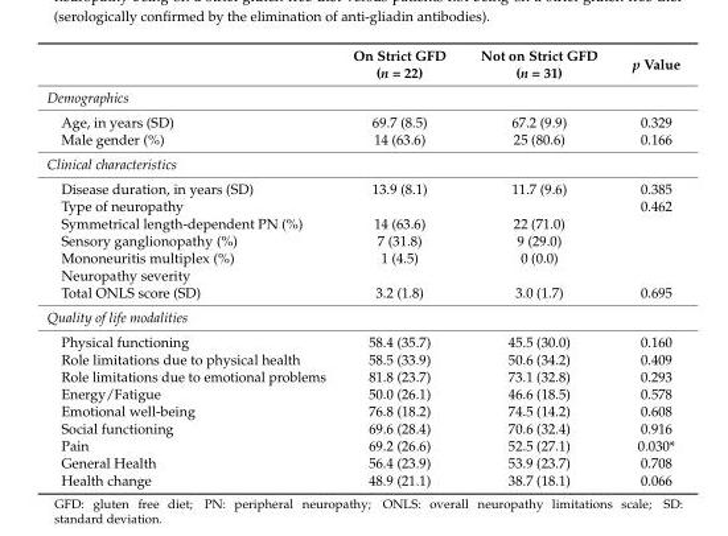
<table><thead><tr><td></td><td>On Strict GFD (n = 22)</td><td>Not on Strict GFD (n = 31)</td><td>p Value</td></tr></thead><tbody><tr><td colspan="4">Demographics</td></tr><tr><td>Age, in years (SD)</td><td>69.7 (8.5)</td><td>67.2 (9.9)</td><td>0.329</td></tr><tr><td>Male gender (%)</td><td>14 (63.6)</td><td>25 (80.6)</td><td>0.166</td></tr><tr><td colspan="4">Clinical characteristics</td></tr><tr><td>Disease duration, in years (SD)</td><td>13.9 (8.1)</td><td>11.7 (9.6)</td><td>0.385</td></tr><tr><td>Type of neuropathy</td><td></td><td></td><td>0.462</td></tr><tr><td>Symmetrical length-dependent PN (%)</td><td>14 (63.6)</td><td>22 (71.0)</td><td></td></tr><tr><td>Sensory ganglionopathy (%)</td><td>7 (31.8)</td><td>9 (29.0)</td><td></td></tr><tr><td>Mononeuritis multiplex (%)</td><td>1 (4.5)</td><td>0 (0.0)</td><td></td></tr><tr><td colspan="4">Neuropathy severity</td></tr><tr><td>Total ONLS score (SD)</td><td>3.2 (1.8)</td><td>3.0 (1.7)</td><td>0.695</td></tr><tr><td colspan="4">Quality of life modalities</td></tr><tr><td>Physical functioning</td><td>58.4 (35.7)</td><td>45.5 (30.0)</td><td>0.160</td></tr><tr><td>Role limitations due to physical health</td><td>58.5 (33.9)</td><td>50.6 (34.2)</td><td>0.409</td></tr><tr><td>Role limitations due to emotional problems</td><td>81.8 (23.7)</td><td>73.1 (32.8)</td><td>0.293</td></tr><tr><td>Energy/Fatigue</td><td>50.0 (26.1)</td><td>46.6 (18.5)</td><td>0.578</td></tr><tr><td>Emotional well-being</td><td>76.8 (18.2)</td><td>74.5 (14.2)</td><td>0.608</td></tr><tr><td>Social functioning</td><td>69.6 (28.4)</td><td>70.6 (32.4)</td><td>0.916</td></tr><tr><td>Pain</td><td>69.2 (26.6)</td><td>52.5 (27.1)</td><td>0.030*</td></tr><tr><td>General Health</td><td>56.4 (23.9)</td><td>53.9 (23.7)</td><td>0.708</td></tr><tr><td>Health change</td><td>48.9 (21.1)</td><td>38.7 (18.1)</td><td>0.066</td></tr></tbody></table>